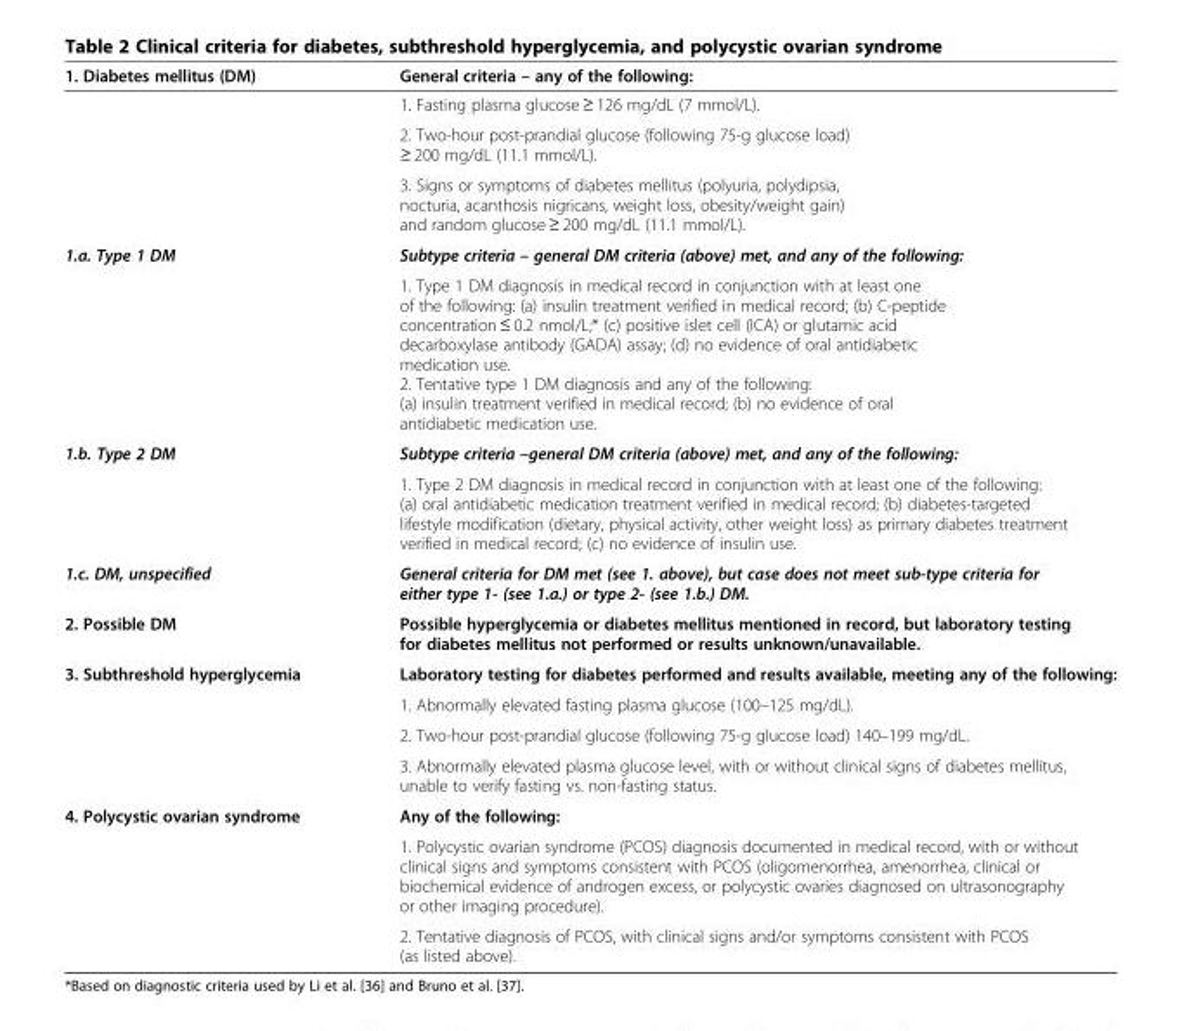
<table><thead><tr><td>1. Diabetes mellitus (DM)</td><td>General criteria – any of the following:</td></tr></thead><tbody><tr><td rowspan="3"></td><td>1. Fasting plasma glucose ≥ 126 mg/dL (7 mmol/L).</td></tr><tr><td>2. Two-hour post-prandial glucose (following 75-g glucose load) ≥ 200 mg/dL (11.1 mmol/L).</td></tr><tr><td>3. Signs or symptoms of diabetes mellitus (polyuria, polydipsia, nocturia, acanthosis nigricans, weight loss, obesity/weight gain) and random glucose ≥ 200 mg/dL (11.1 mmol/L).</td></tr><tr><td rowspan="2">1.a. Type 1 DM</td><td>Subtype criteria – general DM criteria (above) met, and any of the following:</td></tr><tr><td>1. Type 1 DM diagnosis in medical record in conjunction with at least one of the following: (a) insulin treatment verified in medical record; (b) C-peptide concentration ≤ 0.2 nmol/L;* (c) positive islet cell (ICA) or glutamic acid decarboxylase antibody (GADA) assay; (d) no evidence of oral antidiabetic medication use. 2. Tentative type 1 DM diagnosis and any of the following: (a) insulin treatment verified in medical record; (b) no evidence of oral antidiabetic medication use.</td></tr><tr><td rowspan="2">1.b. Type 2 DM</td><td>Subtype criteria –general DM criteria (above) met, and any of the following:</td></tr><tr><td>1. Type 2 DM diagnosis in medical record in conjunction with at least one of the following: (a) oral antidiabetic medication treatment verified in medical record; (b) diabetes-targeted lifestyle modification (dietary, physical activity, other weight loss) as primary diabetes treatment verified in medical record; (c) no evidence of insulin use.</td></tr><tr><td>1.c. DM, unspecified</td><td>General criteria for DM met (see 1. above), but case does not meet sub-type criteria for either type 1- (see 1.a.) or type 2- (see 1.b.) DM.</td></tr><tr><td>2. Possible DM</td><td>Possible hyperglycemia or diabetes mellitus mentioned in record, but laboratory testing for diabetes mellitus not performed or results unknown/unavailable.</td></tr><tr><td rowspan="4">3. Subthreshold hyperglycemia</td><td>Laboratory testing for diabetes performed and results available, meeting any of the following:</td></tr><tr><td>1. Abnormally elevated fasting plasma glucose (100–125 mg/dL).</td></tr><tr><td>2. Two-hour post-prandial glucose (following 75-g glucose load) 140–199 mg/dL.</td></tr><tr><td>3. Abnormally elevated plasma glucose level, with or without clinical signs of diabetes mellitus, unable to verify fasting vs. non-fasting status.</td></tr><tr><td rowspan="3">4. Polycystic ovarian syndrome</td><td>Any of the following:</td></tr><tr><td>1. Polycystic ovarian syndrome (PCOS) diagnosis documented in medical record, with or without clinical signs and symptoms consistent with PCOS (oligomenorrhea, amenorrhea, clinical or biochemical evidence of androgen excess, or polycystic ovaries diagnosed on ultrasonography or other imaging procedure).</td></tr><tr><td>2. Tentative diagnosis of PCOS, with clinical signs and/or symptoms consistent with PCOS (as listed above).</td></tr></tbody></table>